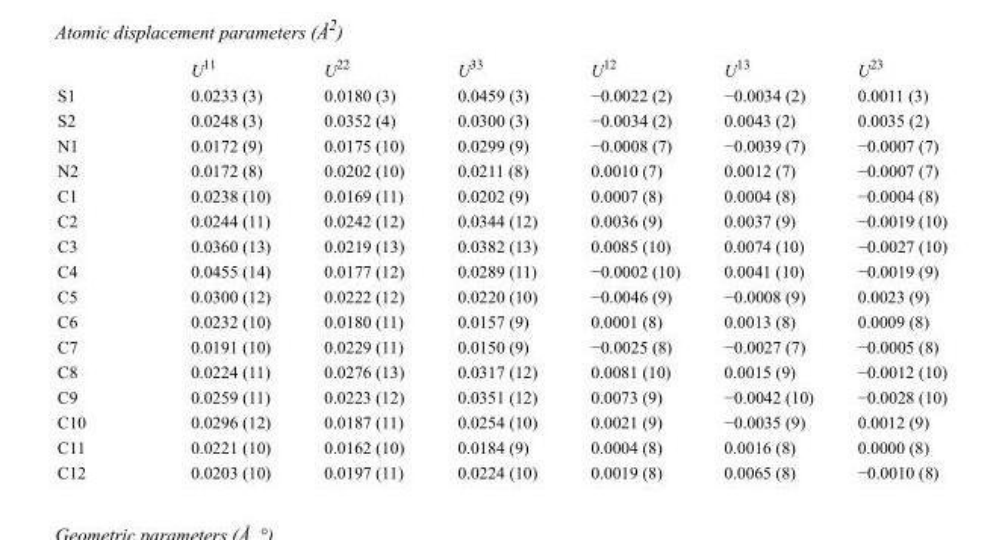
<table><thead><tr><td></td><td>U<sup>11</sup></td><td>U<sup>22</sup></td><td>U<sup>33</sup></td><td>U<sup>12</sup></td><td>U<sup>13</sup></td><td>U<sup>23</sup></td></tr></thead><tbody><tr><td>S1</td><td>0.0233 (3)</td><td>0.0180 (3)</td><td>0.0459 (3)</td><td>−0.0022 (2)</td><td>−0.0034 (2)</td><td>0.0011 (3)</td></tr><tr><td>S2</td><td>0.0248 (3)</td><td>0.0352 (4)</td><td>0.0300 (3)</td><td>−0.0034 (2)</td><td>0.0043 (2)</td><td>0.0035 (2)</td></tr><tr><td>N1</td><td>0.0172 (9)</td><td>0.0175 (10)</td><td>0.0299 (9)</td><td>−0.0008 (7)</td><td>−0.0039 (7)</td><td>−0.0007 (7)</td></tr><tr><td>N2</td><td>0.0172 (8)</td><td>0.0202 (10)</td><td>0.0211 (8)</td><td>0.0010 (7)</td><td>0.0012 (7)</td><td>−0.0007 (7)</td></tr><tr><td>C1</td><td>0.0238 (10)</td><td>0.0169 (11)</td><td>0.0202 (9)</td><td>0.0007 (8)</td><td>0.0004 (8)</td><td>−0.0004 (8)</td></tr><tr><td>C2</td><td>0.0244 (11)</td><td>0.0242 (12)</td><td>0.0344 (12)</td><td>0.0036 (9)</td><td>0.0037 (9)</td><td>−0.0019 (10)</td></tr><tr><td>C3</td><td>0.0360 (13)</td><td>0.0219 (13)</td><td>0.0382 (13)</td><td>0.0085 (10)</td><td>0.0074 (10)</td><td>−0.0027 (10)</td></tr><tr><td>C4</td><td>0.0455 (14)</td><td>0.0177 (12)</td><td>0.0289 (11)</td><td>−0.0002 (10)</td><td>0.0041 (10)</td><td>−0.0019 (9)</td></tr><tr><td>C5</td><td>0.0300 (12)</td><td>0.0222 (12)</td><td>0.0220 (10)</td><td>−0.0046 (9)</td><td>−0.0008 (9)</td><td>0.0023 (9)</td></tr><tr><td>C6</td><td>0.0232 (10)</td><td>0.0180 (11)</td><td>0.0157 (9)</td><td>0.0001 (8)</td><td>0.0013 (8)</td><td>0.0009 (8)</td></tr><tr><td>C7</td><td>0.0191 (10)</td><td>0.0229 (11)</td><td>0.0150 (9)</td><td>−0.0025 (8)</td><td>−0.0027 (7)</td><td>−0.0005 (8)</td></tr><tr><td>C8</td><td>0.0224 (11)</td><td>0.0276 (13)</td><td>0.0317 (12)</td><td>0.0081 (10)</td><td>0.0015 (9)</td><td>−0.0012 (10)</td></tr><tr><td>C9</td><td>0.0259 (11)</td><td>0.0223 (12)</td><td>0.0351 (12)</td><td>0.0073 (9)</td><td>−0.0042 (10)</td><td>−0.0028 (10)</td></tr><tr><td>C10</td><td>0.0296 (12)</td><td>0.0187 (11)</td><td>0.0254 (10)</td><td>0.0021 (9)</td><td>−0.0035 (9)</td><td>0.0012 (9)</td></tr><tr><td>C11</td><td>0.0221 (10)</td><td>0.0162 (10)</td><td>0.0184 (9)</td><td>0.0004 (8)</td><td>0.0016 (8)</td><td>0.0000 (8)</td></tr><tr><td>C12</td><td>0.0203 (10)</td><td>0.0197 (11)</td><td>0.0224 (10)</td><td>0.0019 (8)</td><td>0.0065 (8)</td><td>−0.0010 (8)</td></tr></tbody></table>